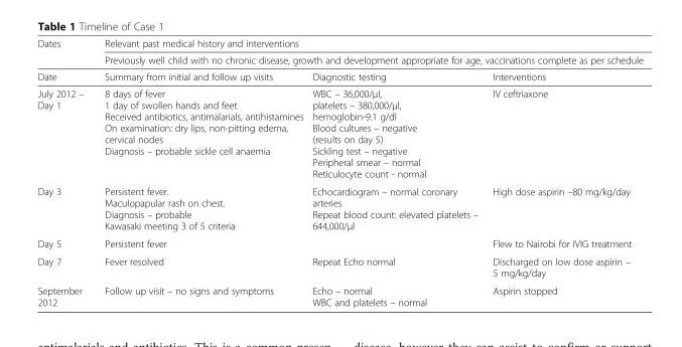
<table><thead><tr><td rowspan="3">Dates Date</td><td rowspan="2" colspan="3">Relevant past medical history and interventions Previously well child with no chronic disease, growth and development appropriate for age, vaccinations complete as per schedule</td></tr><tr></tr><tr><td>Summary from initial and follow up visits</td><td>Diagnostic testing</td><td>Interventions</td></tr></thead><tbody><tr><td>July 2012 – Day 1</td><td>8 days of fever 1 day of swollen hands and feet Received antibiotics, antimalarials, antihistamines On examination: dry lips, non-pitting edema, cervical nodes Diagnosis – probable sickle cell anaemia</td><td>WBC – 36,000/μl, platelets – 380,000/μl, hemoglobin-9.1 g/dl Blood cultures – negative (results on day 5) Sickling test – negative Peripheral smear – normal Reticulocyte count - normal</td><td>IV ceftriaxone</td></tr><tr><td>Day 3</td><td>Persistent fever. Maculopapular rash on chest. Diagnosis – probable Kawasaki meeting 3 of 5 criteria</td><td>Echocardiogram – normal coronary arteries Repeat blood count: elevated platelets – 644,000/μl</td><td>High dose aspirin –80 mg/kg/day</td></tr><tr><td>Day 5</td><td>Persistent fever</td><td></td><td>Flew to Nairobi for IVIG treatment</td></tr><tr><td>Day 7</td><td>Fever resolved</td><td>Repeat Echo normal</td><td>Discharged on low dose aspirin – 5 mg/kg/day</td></tr><tr><td>September 2012</td><td>Follow up visit – no signs and symptoms</td><td>Echo – normal WBC and platelets – normal</td><td>Aspirin stopped</td></tr></tbody></table>